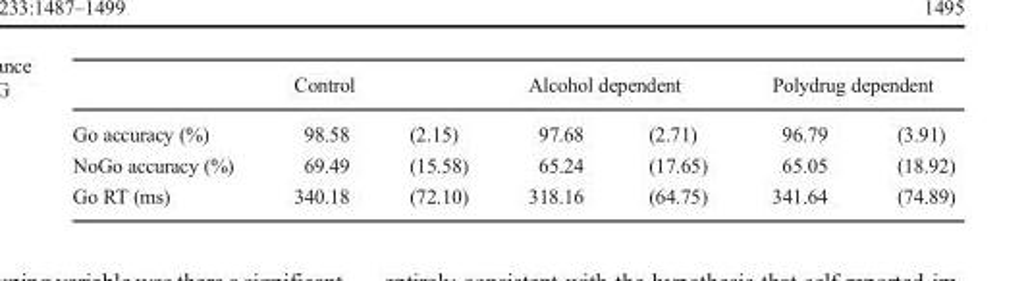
<table><thead><tr><td rowspan="2">Go accuracy (%)</td><td colspan="2">Control</td><td colspan="2">Alcohol dependent</td><td colspan="2">Polydrug dependent</td></tr><tr><td>98.58</td><td>(2.15)</td><td>97.68</td><td>(2.71)</td><td>96.79</td><td>(3.91)</td></tr></thead><tbody><tr><td>NoGo accuracy (%)</td><td>69.49</td><td>(15.58)</td><td>65.24</td><td>(17.65)</td><td>65.05</td><td>(18.92)</td></tr><tr><td>Go RT (ms)</td><td>340.18</td><td>(72.10)</td><td>318.16</td><td>(64.75)</td><td>341.64</td><td>(74.89)</td></tr></tbody></table>